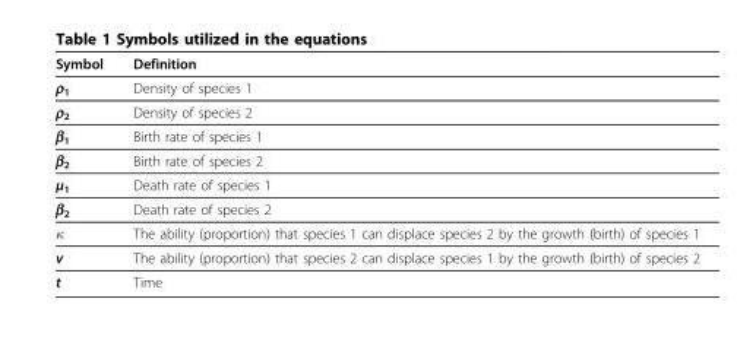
<table><thead><tr><td>Symbol</td><td>Definition</td></tr></thead><tbody><tr><td>ρ<sub>1</sub></td><td>Density of species 1</td></tr><tr><td>ρ<sub>2</sub></td><td>Density of species 2</td></tr><tr><td>β<sub>1</sub></td><td>Birth rate of species 1</td></tr><tr><td>β<sub>2</sub></td><td>Birth rate of species 2</td></tr><tr><td>μ<sub>1</sub></td><td>Death rate of species 1</td></tr><tr><td>β<sub>2</sub></td><td>Death rate of species 2</td></tr><tr><td>κ</td><td>The ability (proportion) that species 1 can displace species 2 by the growth (birth) of species 1</td></tr><tr><td>v</td><td>The ability (proportion) that species 2 can displace species 1 by the growth (birth) of species 2</td></tr><tr><td>t</td><td>Time</td></tr></tbody></table>